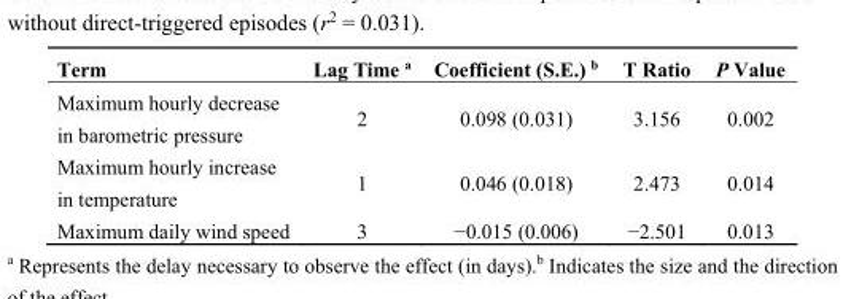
<table><thead><tr><td>Term</td><td>Lag Time <sup>a</sup></td><td>Coefficient (S.E.) <sup>b</sup></td><td>T Ratio</td><td>P Value</td></tr></thead><tbody><tr><td>Maximum hourly decrease in barometric pressure</td><td>2</td><td>0.098 (0.031)</td><td>3.156</td><td>0.002</td></tr><tr><td>Maximum hourly increase in temperature</td><td>1</td><td>0.046 (0.018)</td><td>2.473</td><td>0.014</td></tr><tr><td>Maximum daily wind speed</td><td>3</td><td>−0.015 (0.006)</td><td>−2.501</td><td>0.013</td></tr></tbody></table>